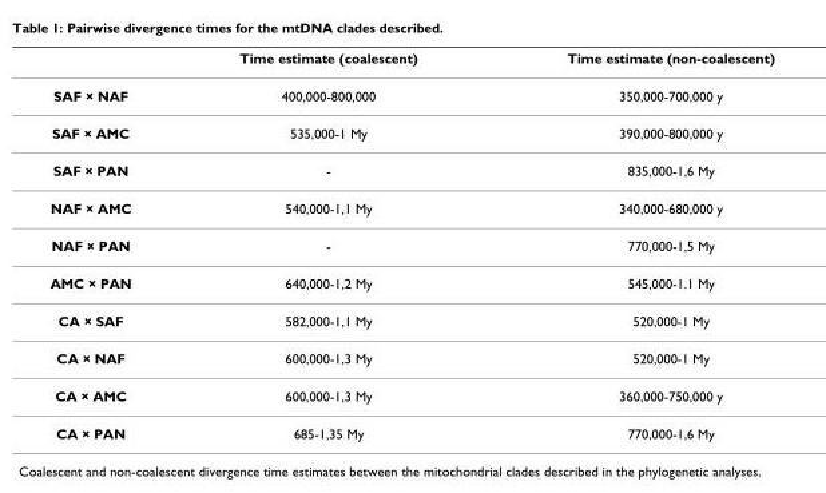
<table><thead><tr><td></td><td>Time estimate (coalescent)</td><td>Time estimate (non-coalescent)</td></tr></thead><tbody><tr><td>SAF × NAF</td><td>400,000-800,000</td><td>350,000-700,000 y</td></tr><tr><td>SAF × AMC</td><td>535,000-1 My</td><td>390,000-800,000 y</td></tr><tr><td>SAF × PAN</td><td>-</td><td>835,000-1,6 My</td></tr><tr><td>NAF × AMC</td><td>540,000-1,1 My</td><td>340,000-680,000 y</td></tr><tr><td>NAF × PAN</td><td>-</td><td>770,000-1,5 My</td></tr><tr><td>AMC × PAN</td><td>640,000-1,2 My</td><td>545,000-1.1 My</td></tr><tr><td>CA × SAF</td><td>582,000-1,1 My</td><td>520,000-1 My</td></tr><tr><td>CA × NAF</td><td>600,000-1,3 My</td><td>520,000-1 My</td></tr><tr><td>CA × AMC</td><td>600,000-1,3 My</td><td>360,000-750,000 y</td></tr><tr><td>CA × PAN</td><td>685-1,35 My</td><td>770,000-1,6 My</td></tr></tbody></table>